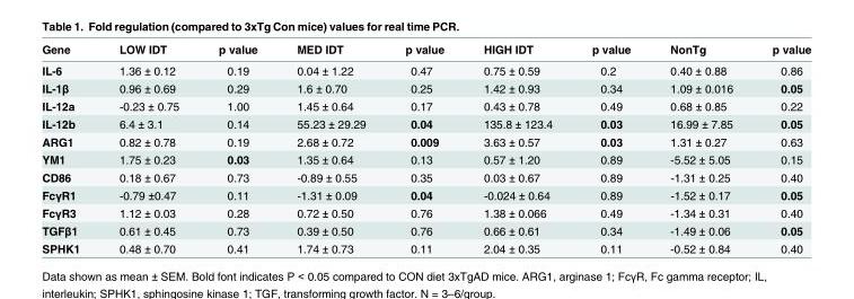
<table><thead><tr><td>Gene</td><td>LOW IDT</td><td>p value</td><td>MED IDT</td><td>p value</td><td>HIGH IDT</td><td>p value</td><td>NonTg</td><td>p value</td></tr></thead><tbody><tr><td>IL-6</td><td>1.36 ± 0.12</td><td>0.19</td><td>0.04 ± 1.22</td><td>0.47</td><td>0.75 ± 0.59</td><td>0.2</td><td>0.40 ± 0.88</td><td>0.86</td></tr><tr><td>IL-1β</td><td>0.96 ± 0.69</td><td>0.29</td><td>1.6 ± 0.70</td><td>0.25</td><td>1.42 ± 0.93</td><td>0.34</td><td>1.09 ± 0.016</td><td>0.05</td></tr><tr><td>IL-12a</td><td>-0.23 ± 0.75</td><td>1.00</td><td>1.45 ± 0.64</td><td>0.17</td><td>0.43 ± 0.78</td><td>0.49</td><td>0.68 ± 0.85</td><td>0.22</td></tr><tr><td>IL-12b</td><td>6.4 ± 3.1</td><td>0.14</td><td>55.23 ± 29.29</td><td>0.04</td><td>135.8 ± 123.4</td><td>0.03</td><td>16.99 ± 7.85</td><td>0.05</td></tr><tr><td>ARG1</td><td>0.82 ± 0.78</td><td>0.19</td><td>2.68 ± 0.72</td><td>0.009</td><td>3.63 ± 0.57</td><td>0.03</td><td>1.31 ± 0.27</td><td>0.63</td></tr><tr><td>YM1</td><td>1.75 ± 0.23</td><td>0.03</td><td>1.35 ± 0.64</td><td>0.13</td><td>0.57 ± 1.20</td><td>0.89</td><td>-5.52 ± 5.05</td><td>0.15</td></tr><tr><td>CD86</td><td>0.18 ± 0.67</td><td>0.73</td><td>-0.89 ± 0.55</td><td>0.35</td><td>0.03 ± 0.67</td><td>0.89</td><td>-1.31 ± 0.25</td><td>0.40</td></tr><tr><td>FcγR1</td><td>-0.79 ±0.47</td><td>0.11</td><td>-1.31 ± 0.09</td><td>0.04</td><td>-0.024 ± 0.64</td><td>0.89</td><td>-1.52 ± 0.17</td><td>0.05</td></tr><tr><td>FcγR3</td><td>1.12 ± 0.03</td><td>0.28</td><td>0.72 ± 0.50</td><td>0.76</td><td>1.38 ± 0.066</td><td>0.49</td><td>-1.34 ± 0.31</td><td>0.40</td></tr><tr><td>TGFβ1</td><td>0.61 ± 0.45</td><td>0.73</td><td>0.39 ± 0.50</td><td>0.76</td><td>0.66 ± 0.61</td><td>0.34</td><td>-1.49 ± 0.06</td><td>0.05</td></tr><tr><td>SPHK1</td><td>0.48 ± 0.70</td><td>0.41</td><td>1.74 ± 0.73</td><td>0.11</td><td>2.04 ± 0.35</td><td>0.11</td><td>-0.52 ± 0.84</td><td>0.40</td></tr></tbody></table>